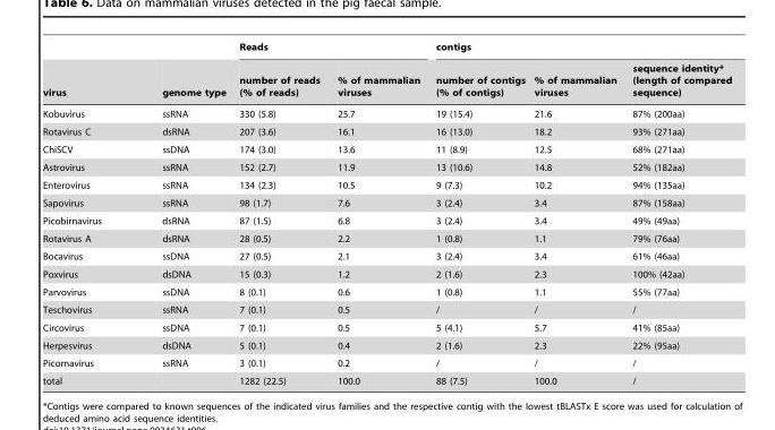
<table><thead><tr><td rowspan="2">virus</td><td rowspan="2">genome type</td><td colspan="2">Reads</td><td colspan="3">contigs</td></tr><tr><td>number of reads (% of reads)</td><td>% of mammalian viruses</td><td>number of contigs (% of contigs)</td><td>% of mammalian viruses</td><td>sequence identity* (length of compared sequence)</td></tr></thead><tbody><tr><td>Kobuvirus</td><td>ssRNA</td><td>330 (5.8)</td><td>25.7</td><td>19 (15.4)</td><td>21.6</td><td>87% (200aa)</td></tr><tr><td>Rotavirus C</td><td>dsRNA</td><td>207 (3.6)</td><td>16.1</td><td>16 (13.0)</td><td>18.2</td><td>93% (271aa)</td></tr><tr><td>ChiSCV</td><td>ssDNA</td><td>174 (3.0)</td><td>13.6</td><td>11 (8.9)</td><td>12.5</td><td>68% (271aa)</td></tr><tr><td>Astrovirus</td><td>ssRNA</td><td>152 (2.7)</td><td>11.9</td><td>13 (10.6)</td><td>14.8</td><td>52% (182aa)</td></tr><tr><td>Enterovirus</td><td>ssRNA</td><td>134 (2.3)</td><td>10.5</td><td>9 (7.3)</td><td>10.2</td><td>94% (135aa)</td></tr><tr><td>Sapovirus</td><td>ssRNA</td><td>98 (1.7)</td><td>7.6</td><td>3 (2.4)</td><td>3.4</td><td>87% (158aa)</td></tr><tr><td>Picobirnavirus</td><td>dsRNA</td><td>87 (1.5)</td><td>6.8</td><td>3 (2.4)</td><td>3.4</td><td>49% (49aa)</td></tr><tr><td>Rotavirus A</td><td>dsRNA</td><td>28 (0.5)</td><td>2.2</td><td>1 (0.8)</td><td>1.1</td><td>79% (76aa)</td></tr><tr><td>Bocavirus</td><td>ssDNA</td><td>27 (0.5)</td><td>2.1</td><td>3 (2.4)</td><td>3.4</td><td>61% (46aa)</td></tr><tr><td>Poxvirus</td><td>dsDNA</td><td>15 (0.3)</td><td>1.2</td><td>2 (1.6)</td><td>2.3</td><td>100% (42aa)</td></tr><tr><td>Parvovirus</td><td>ssDNA</td><td>8 (0.1)</td><td>0.6</td><td>1 (0.8)</td><td>1.1</td><td>55% (77aa)</td></tr><tr><td>Teschovirus</td><td>ssRNA</td><td>7 (0.1)</td><td>0.5</td><td>/</td><td>/</td><td>/</td></tr><tr><td>Circovirus</td><td>ssDNA</td><td>7 (0.1)</td><td>0.5</td><td>5 (4.1)</td><td>5.7</td><td>41% (85aa)</td></tr><tr><td>Herpesvirus</td><td>dsDNA</td><td>5 (0.1)</td><td>0.4</td><td>2 (1.6)</td><td>2.3</td><td>22% (95aa)</td></tr><tr><td>Picornavirus</td><td>ssRNA</td><td>3 (0.1)</td><td>0.2</td><td>/</td><td>/</td><td>/</td></tr><tr><td>total</td><td></td><td>1282 (22.5)</td><td>100.0</td><td>88 (7.5)</td><td>100.0</td><td>/</td></tr></tbody></table>